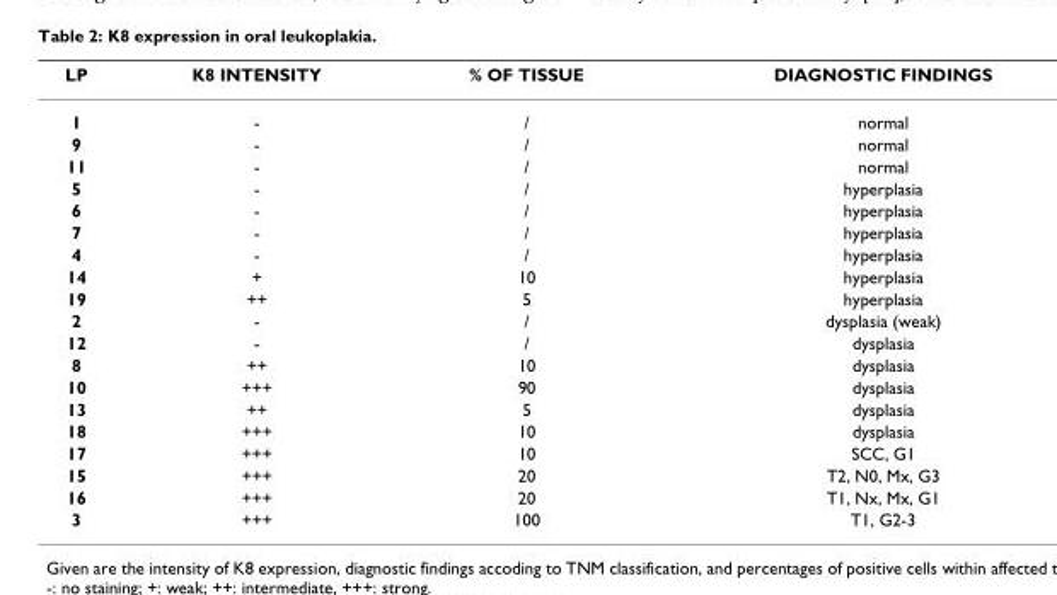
<table><thead><tr><td>LP</td><td>K8 INTENSITY</td><td>% OF TISSUE</td><td>DIAGNOSTIC FINDINGS</td></tr></thead><tbody><tr><td>1</td><td>-</td><td>/</td><td>normal</td></tr><tr><td>9</td><td>-</td><td>/</td><td>normal</td></tr><tr><td>11</td><td>-</td><td>/</td><td>normal</td></tr><tr><td>5</td><td>-</td><td>/</td><td>hyperplasia</td></tr><tr><td>6</td><td>-</td><td>/</td><td>hyperplasia</td></tr><tr><td>7</td><td>-</td><td>/</td><td>hyperplasia</td></tr><tr><td>4</td><td>-</td><td>/</td><td>hyperplasia</td></tr><tr><td>14</td><td>+</td><td>10</td><td>hyperplasia</td></tr><tr><td>19</td><td>++</td><td>5</td><td>hyperplasia</td></tr><tr><td>2</td><td>-</td><td>/</td><td>dysplasia (weak)</td></tr><tr><td>12</td><td>-</td><td>/</td><td>dysplasia</td></tr><tr><td>8</td><td>++</td><td>10</td><td>dysplasia</td></tr><tr><td>10</td><td>+++</td><td>90</td><td>dysplasia</td></tr><tr><td>13</td><td>++</td><td>5</td><td>dysplasia</td></tr><tr><td>18</td><td>+++</td><td>10</td><td>dysplasia</td></tr><tr><td>17</td><td>+++</td><td>10</td><td>SCC, G1</td></tr><tr><td>15</td><td>+++</td><td>20</td><td>T2, N0, Mx, G3</td></tr><tr><td>16</td><td>+++</td><td>20</td><td>T1, Nx, Mx, G1</td></tr><tr><td>3</td><td>+++</td><td>100</td><td>T1, G2-3</td></tr></tbody></table>